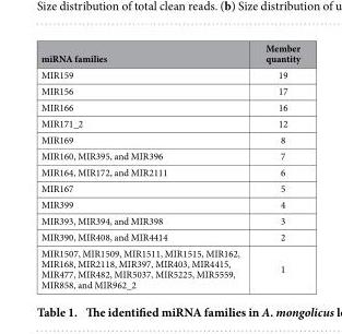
<table><thead><tr><td>miRNA families</td><td>Member quantity</td></tr></thead><tbody><tr><td>MIR159</td><td>19</td></tr><tr><td>MIR156</td><td>17</td></tr><tr><td>MIR166</td><td>16</td></tr><tr><td>MIR171_2</td><td>12</td></tr><tr><td>MIR169</td><td>8</td></tr><tr><td>MIR160, MIR395, and MIR396</td><td>7</td></tr><tr><td>MIR164, MIR172, and MIR2111</td><td>6</td></tr><tr><td>MIR167</td><td>5</td></tr><tr><td>MIR399</td><td>4</td></tr><tr><td>MIR393, MIR394, and MIR398</td><td>3</td></tr><tr><td>MIR390, MIR408, and MIR4414</td><td>2</td></tr><tr><td>MIR1507, MIR1509, MIR1511, MIR1515, MIR162, MIR168, MIR2118, MIR397, MIR403, MIR4415, MIR477, MIR482, MIR5037, MIR5225, MIR5559, MIR858, and MIR962_2</td><td>1</td></tr></tbody></table>